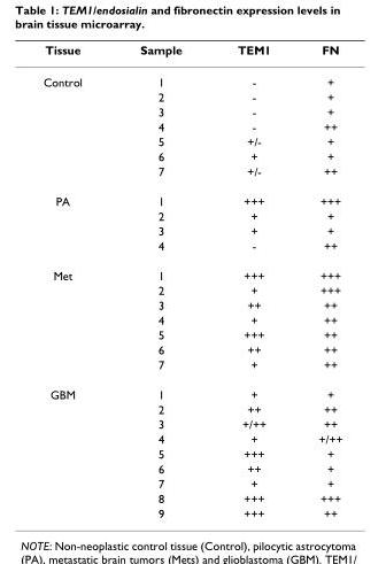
<table><thead><tr><td>Tissue</td><td>Sample</td><td>TEM1</td><td>FN</td></tr></thead><tbody><tr><td rowspan="7">Control</td><td>1</td><td>-</td><td>+</td></tr><tr><td>2</td><td>-</td><td>+</td></tr><tr><td>3</td><td>-</td><td>+</td></tr><tr><td>4</td><td>-</td><td>++</td></tr><tr><td>5</td><td>+/-</td><td>+</td></tr><tr><td>6</td><td>+</td><td>+</td></tr><tr><td>7</td><td>+/-</td><td>++</td></tr><tr><td rowspan="4">PA</td><td>1</td><td>+++</td><td>+++</td></tr><tr><td>2</td><td>+</td><td>+</td></tr><tr><td>3</td><td>+</td><td>+</td></tr><tr><td>4</td><td>-</td><td>++</td></tr><tr><td rowspan="7">Met</td><td>1</td><td>+++</td><td>+++</td></tr><tr><td>2</td><td>+</td><td>+++</td></tr><tr><td>3</td><td>++</td><td>++</td></tr><tr><td>4</td><td>+</td><td>++</td></tr><tr><td>5</td><td>+++</td><td>++</td></tr><tr><td>6</td><td>++</td><td>++</td></tr><tr><td>7</td><td>+</td><td>++</td></tr><tr><td rowspan="9">GBM</td><td>1</td><td>+</td><td>+</td></tr><tr><td>2</td><td>++</td><td>++</td></tr><tr><td>3</td><td>+/++</td><td>++</td></tr><tr><td>4</td><td>+</td><td>+/++</td></tr><tr><td>5</td><td>+++</td><td>+</td></tr><tr><td>6</td><td>++</td><td>+</td></tr><tr><td>7</td><td>+</td><td>+</td></tr><tr><td>8</td><td>+++</td><td>+++</td></tr><tr><td>9</td><td>+++</td><td>++</td></tr></tbody></table>